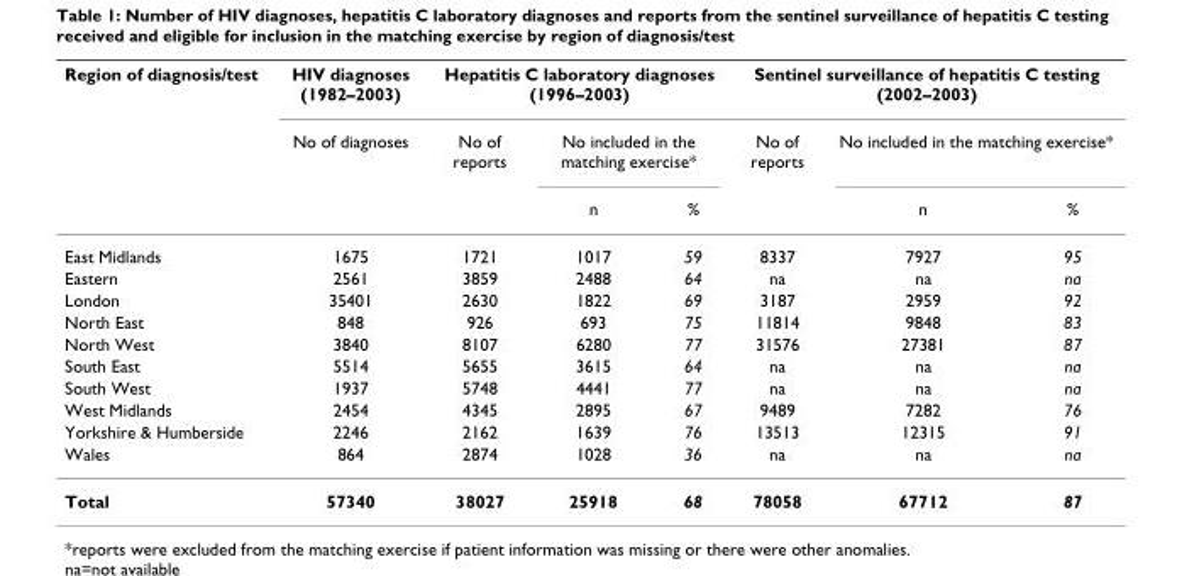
<table><thead><tr><td rowspan="3">Region of diagnosis/test</td><td rowspan="3">HIV diagnoses (1982–2003) No of diagnoses</td><td colspan="3">Hepatitis C laboratory diagnoses (1996–2003)</td><td colspan="3">Sentinel surveillance of hepatitis C testing (2002–2003)</td></tr><tr><td rowspan="2">No of reports</td><td colspan="2">No included in the matching exercise*</td><td rowspan="2">No of reports</td><td colspan="2">No included in the matching exercise*</td></tr><tr><td>n</td><td>%</td><td>n</td><td>%</td></tr></thead><tbody><tr><td>East Midlands</td><td>1675</td><td>1721</td><td>1017</td><td>59</td><td>8337</td><td>7927</td><td>95</td></tr><tr><td>Eastern</td><td>2561</td><td>3859</td><td>2488</td><td>64</td><td>na</td><td>na</td><td>na</td></tr><tr><td>London</td><td>35401</td><td>2630</td><td>1822</td><td>69</td><td>3187</td><td>2959</td><td>92</td></tr><tr><td>North East</td><td>848</td><td>926</td><td>693</td><td>75</td><td>11814</td><td>9848</td><td>83</td></tr><tr><td>North West</td><td>3840</td><td>8107</td><td>6280</td><td>77</td><td>31576</td><td>27381</td><td>87</td></tr><tr><td>South East</td><td>5514</td><td>5655</td><td>3615</td><td>64</td><td>na</td><td>na</td><td>na</td></tr><tr><td>South West</td><td>1937</td><td>5748</td><td>4441</td><td>77</td><td>na</td><td>na</td><td>na</td></tr><tr><td>West Midlands</td><td>2454</td><td>4345</td><td>2895</td><td>67</td><td>9489</td><td>7282</td><td>76</td></tr><tr><td>Yorkshire &amp; Humberside</td><td>2246</td><td>2162</td><td>1639</td><td>76</td><td>13513</td><td>12315</td><td>91</td></tr><tr><td>Wales</td><td>864</td><td>2874</td><td>1028</td><td>36</td><td>na</td><td>na</td><td>na</td></tr><tr><td>Total</td><td>57340</td><td>38027</td><td>25918</td><td>68</td><td>78058</td><td>67712</td><td>87</td></tr></tbody></table>